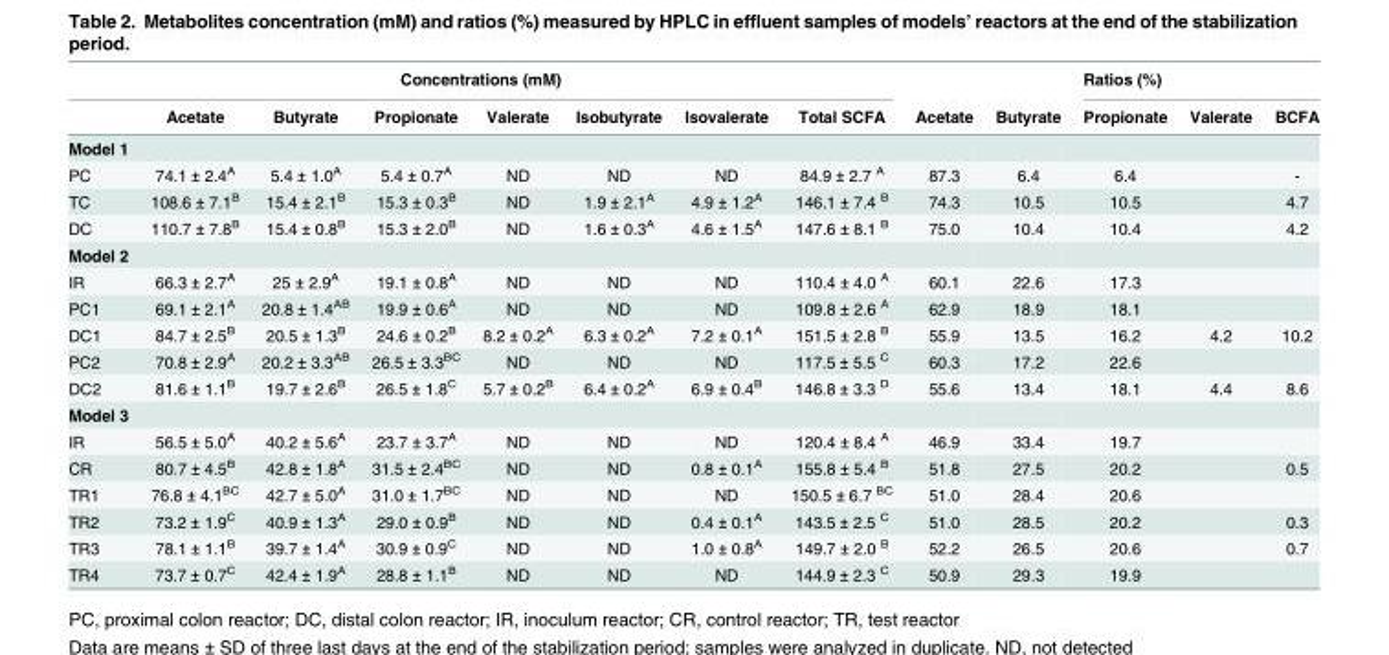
<table><thead><tr><td colspan="8">Concentrations (mM)</td><td rowspan="2">Acetate</td><td rowspan="2">Butyrate</td><td colspan="3">Ratios (%)</td></tr><tr><td></td><td>Acetate</td><td>Butyrate</td><td>Propionate</td><td>Valerate</td><td>Isobutyrate</td><td>Isovalerate</td><td>Total SCFA</td><td>Propionate</td><td>Valerate</td><td>BCFA</td></tr></thead><tbody><tr><td colspan="13">Model 1</td></tr><tr><td>PC</td><td>74.1 ± 2.4<sup>A</sup></td><td>5.4 ± 1.0<sup>A</sup></td><td>5.4 ± 0.7<sup>A</sup></td><td>ND</td><td>ND</td><td>ND</td><td>84.9 ± 2.7 <sup>A</sup></td><td>87.3</td><td>6.4</td><td>6.4</td><td></td><td>-</td></tr><tr><td>TC</td><td>108.6 ± 7.1<sup>B</sup></td><td>15.4 ± 2.1<sup>B</sup></td><td>15.3 ± 0.3<sup>B</sup></td><td>ND</td><td>1.9 ± 2.1<sup>A</sup></td><td>4.9 ± 1.2<sup>A</sup></td><td>146.1 ± 7.4 <sup>B</sup></td><td>74.3</td><td>10.5</td><td>10.5</td><td></td><td>4.7</td></tr><tr><td>DC</td><td>110.7 ± 7.8<sup>B</sup></td><td>15.4 ± 0.8<sup>B</sup></td><td>15.3 ± 2.0<sup>B</sup></td><td>ND</td><td>1.6 ± 0.3<sup>A</sup></td><td>4.6 ± 1.5<sup>A</sup></td><td>147.6 ± 8.1 <sup>B</sup></td><td>75.0</td><td>10.4</td><td>10.4</td><td></td><td>4.2</td></tr><tr><td colspan="13">Model 2</td></tr><tr><td>IR</td><td>66.3 ± 2.7<sup>A</sup></td><td>25 ± 2.9<sup>A</sup></td><td>19.1 ± 0.8<sup>A</sup></td><td>ND</td><td>ND</td><td>ND</td><td>110.4 ± 4.0 <sup>A</sup></td><td>60.1</td><td>22.6</td><td>17.3</td><td></td><td></td></tr><tr><td>PC1</td><td>69.1 ± 2.1<sup>A</sup></td><td>20.8 ± 1.4<sup>AB</sup></td><td>19.9 ± 0.6<sup>A</sup></td><td>ND</td><td>ND</td><td>ND</td><td>109.8 ± 2.6 <sup>A</sup></td><td>62.9</td><td>18.9</td><td>18.1</td><td></td><td></td></tr><tr><td>DC1</td><td>84.7 ± 2.5<sup>B</sup></td><td>20.5 ± 1.3<sup>B</sup></td><td>24.6 ± 0.2<sup>B</sup></td><td>8.2 ± 0.2<sup>A</sup></td><td>6.3 ± 0.2<sup>A</sup></td><td>7.2 ± 0.1<sup>A</sup></td><td>151.5 ± 2.8 <sup>B</sup></td><td>55.9</td><td>13.5</td><td>16.2</td><td>4.2</td><td>10.2</td></tr><tr><td>PC2</td><td>70.8 ± 2.9<sup>A</sup></td><td>20.2 ± 3.3<sup>AB</sup></td><td>26.5 ± 3.3<sup>BC</sup></td><td>ND</td><td>ND</td><td>ND</td><td>117.5 ± 5.5 <sup>C</sup></td><td>60.3</td><td>17.2</td><td>22.6</td><td></td><td></td></tr><tr><td>DC2</td><td>81.6 ± 1.1<sup>B</sup></td><td>19.7 ± 2.6<sup>B</sup></td><td>26.5 ± 1.8<sup>C</sup></td><td>5.7 ± 0.2<sup>B</sup></td><td>6.4 ± 0.2<sup>A</sup></td><td>6.9 ± 0.4<sup>B</sup></td><td>146.8 ± 3.3 <sup>D</sup></td><td>55.6</td><td>13.4</td><td>18.1</td><td>4.4</td><td>8.6</td></tr><tr><td colspan="13">Model 3</td></tr><tr><td>IR</td><td>56.5 ± 5.0<sup>A</sup></td><td>40.2 ± 5.6<sup>A</sup></td><td>23.7 ± 3.7<sup>A</sup></td><td>ND</td><td>ND</td><td>ND</td><td>120.4 ± 8.4 <sup>A</sup></td><td>46.9</td><td>33.4</td><td>19.7</td><td></td><td></td></tr><tr><td>CR</td><td>80.7 ± 4.5<sup>B</sup></td><td>42.8 ± 1.8<sup>A</sup></td><td>31.5 ± 2.4<sup>BC</sup></td><td>ND</td><td>ND</td><td>0.8 ± 0.1<sup>A</sup></td><td>155.8 ± 5.4 <sup>B</sup></td><td>51.8</td><td>27.5</td><td>20.2</td><td></td><td>0.5</td></tr><tr><td>TR1</td><td>76.8 ± 4.1<sup>BC</sup></td><td>42.7 ± 5.0<sup>A</sup></td><td>31.0 ± 1.7<sup>BC</sup></td><td>ND</td><td>ND</td><td>ND</td><td>150.5 ± 6.7 <sup>BC</sup></td><td>51.0</td><td>28.4</td><td>20.6</td><td></td><td></td></tr><tr><td>TR2</td><td>73.2 ± 1.9<sup>C</sup></td><td>40.9 ± 1.3<sup>A</sup></td><td>29.0 ± 0.9<sup>B</sup></td><td>ND</td><td>ND</td><td>0.4 ± 0.1<sup>A</sup></td><td>143.5 ± 2.5 <sup>C</sup></td><td>51.0</td><td>28.5</td><td>20.2</td><td></td><td>0.3</td></tr><tr><td>TR3</td><td>78.1 ± 1.1<sup>B</sup></td><td>39.7 ± 1.4<sup>A</sup></td><td>30.9 ± 0.9<sup>C</sup></td><td>ND</td><td>ND</td><td>1.0 ± 0.8<sup>A</sup></td><td>149.7 ± 2.0 <sup>B</sup></td><td>52.2</td><td>26.5</td><td>20.6</td><td></td><td>0.7</td></tr><tr><td>TR4</td><td>73.7 ± 0.7<sup>C</sup></td><td>42.4 ± 1.9<sup>A</sup></td><td>28.8 ± 1.1<sup>B</sup></td><td>ND</td><td>ND</td><td>ND</td><td>144.9 ± 2.3 <sup>C</sup></td><td>50.9</td><td>29.3</td><td>19.9</td><td></td><td></td></tr></tbody></table>